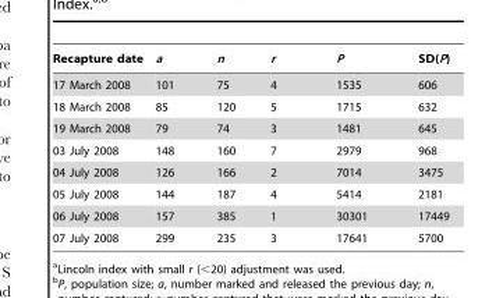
<table><thead><tr><td>Recapture date</td><td>a</td><td>n</td><td>r</td><td>P</td><td>SD(P)</td></tr></thead><tbody><tr><td>17 March 2008</td><td>101</td><td>75</td><td>4</td><td>1535</td><td>606</td></tr><tr><td>18 March 2008</td><td>85</td><td>120</td><td>5</td><td>1715</td><td>632</td></tr><tr><td>19 March 2008</td><td>79</td><td>74</td><td>3</td><td>1481</td><td>645</td></tr><tr><td>03 July 2008</td><td>148</td><td>160</td><td>7</td><td>2979</td><td>968</td></tr><tr><td>04 July 2008</td><td>126</td><td>166</td><td>2</td><td>7014</td><td>3475</td></tr><tr><td>05 July 2008</td><td>144</td><td>187</td><td>4</td><td>5414</td><td>2181</td></tr><tr><td>06 July 2008</td><td>157</td><td>385</td><td>1</td><td>30301</td><td>17449</td></tr><tr><td>07 July 2008</td><td>299</td><td>235</td><td>3</td><td>17641</td><td>5700</td></tr></tbody></table>